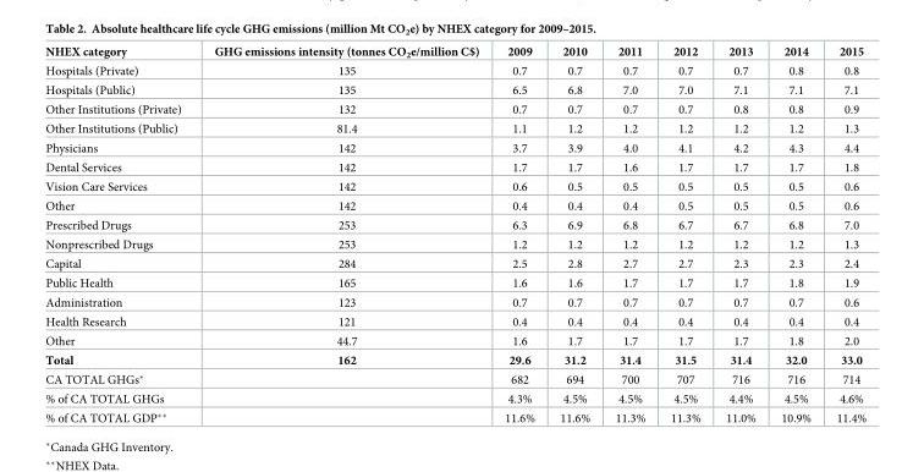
<table><thead><tr><td>NHEX category</td><td>GHG emissions intensity (tonnes CO<sub>2</sub>e/million C$)</td><td>2009</td><td>2010</td><td>2011</td><td>2012</td><td>2013</td><td>2014</td><td>2015</td></tr></thead><tbody><tr><td>Hospitals (Private)</td><td>135</td><td>0.7</td><td>0.7</td><td>0.7</td><td>0.7</td><td>0.7</td><td>0.8</td><td>0.8</td></tr><tr><td>Hospitals (Public)</td><td>135</td><td>6.5</td><td>6.8</td><td>7.0</td><td>7.0</td><td>7.1</td><td>7.1</td><td>7.1</td></tr><tr><td>Other Institutions (Private)</td><td>132</td><td>0.7</td><td>0.7</td><td>0.7</td><td>0.7</td><td>0.8</td><td>0.8</td><td>0.9</td></tr><tr><td>Other Institutions (Public)</td><td>81.4</td><td>1.1</td><td>1.2</td><td>1.2</td><td>1.2</td><td>1.2</td><td>1.2</td><td>1.3</td></tr><tr><td>Physicians</td><td>142</td><td>3.7</td><td>3.9</td><td>4.0</td><td>4.1</td><td>4.2</td><td>4.3</td><td>4.4</td></tr><tr><td>Dental Services</td><td>142</td><td>1.7</td><td>1.7</td><td>1.6</td><td>1.7</td><td>1.7</td><td>1.7</td><td>1.8</td></tr><tr><td>Vision Care Services</td><td>142</td><td>0.6</td><td>0.5</td><td>0.5</td><td>0.5</td><td>0.5</td><td>0.5</td><td>0.6</td></tr><tr><td>Other</td><td>142</td><td>0.4</td><td>0.4</td><td>0.4</td><td>0.5</td><td>0.5</td><td>0.5</td><td>0.6</td></tr><tr><td>Prescribed Drugs</td><td>253</td><td>6.3</td><td>6.9</td><td>6.8</td><td>6.7</td><td>6.7</td><td>6.8</td><td>7.0</td></tr><tr><td>Nonprescribed Drugs</td><td>253</td><td>1.2</td><td>1.2</td><td>1.2</td><td>1.2</td><td>1.2</td><td>1.2</td><td>1.3</td></tr><tr><td>Capital</td><td>284</td><td>2.5</td><td>2.8</td><td>2.7</td><td>2.7</td><td>2.3</td><td>2.3</td><td>2.4</td></tr><tr><td>Public Health</td><td>165</td><td>1.6</td><td>1.6</td><td>1.7</td><td>1.7</td><td>1.7</td><td>1.8</td><td>1.9</td></tr><tr><td>Administration</td><td>123</td><td>0.7</td><td>0.7</td><td>0.7</td><td>0.7</td><td>0.7</td><td>0.7</td><td>0.6</td></tr><tr><td>Health Research</td><td>121</td><td>0.4</td><td>0.4</td><td>0.4</td><td>0.4</td><td>0.4</td><td>0.4</td><td>0.4</td></tr><tr><td>Other</td><td>44.7</td><td>1.6</td><td>1.7</td><td>1.7</td><td>1.7</td><td>1.7</td><td>1.8</td><td>2.0</td></tr><tr><td>Total</td><td>162</td><td>29.6</td><td>31.2</td><td>31.4</td><td>31.5</td><td>31.4</td><td>32.0</td><td>33.0</td></tr><tr><td>CA TOTAL GHGs*</td><td></td><td>682</td><td>694</td><td>700</td><td>707</td><td>716</td><td>716</td><td>714</td></tr><tr><td>% of CA TOTAL GHGs</td><td></td><td>4.3%</td><td>4.5%</td><td>4.5%</td><td>4.5%</td><td>4.4%</td><td>4.5%</td><td>4.6%</td></tr><tr><td>% of CA TOTAL GDP**</td><td></td><td>11.6%</td><td>11.6%</td><td>11.3%</td><td>11.3%</td><td>11.0%</td><td>10.9%</td><td>11.4%</td></tr></tbody></table>